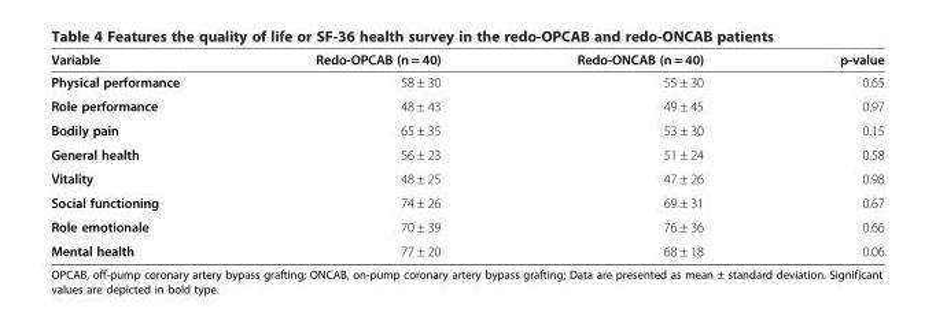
<table><thead><tr><td>Variable</td><td>Redo-OPCAB (n = 40)</td><td>Redo-ONCAB (n = 40)</td><td>p-value</td></tr></thead><tbody><tr><td>Physical performance</td><td>58 ± 30</td><td>55 ± 30</td><td>0.65</td></tr><tr><td>Role performance</td><td>48 ± 43</td><td>49 ± 45</td><td>0.97</td></tr><tr><td>Bodily pain</td><td>65 ± 35</td><td>53 ± 30</td><td>0.15</td></tr><tr><td>General health</td><td>56 ± 23</td><td>51 ± 24</td><td>0.58</td></tr><tr><td>Vitality</td><td>48 ± 25</td><td>47 ± 26</td><td>0.98</td></tr><tr><td>Social functioning</td><td>74 ± 26</td><td>69 ± 31</td><td>0.67</td></tr><tr><td>Role emotionale</td><td>70 ± 39</td><td>76 ± 36</td><td>0.66</td></tr><tr><td>Mental health</td><td>77 ± 20</td><td>68 ± 18</td><td>0.06</td></tr></tbody></table>